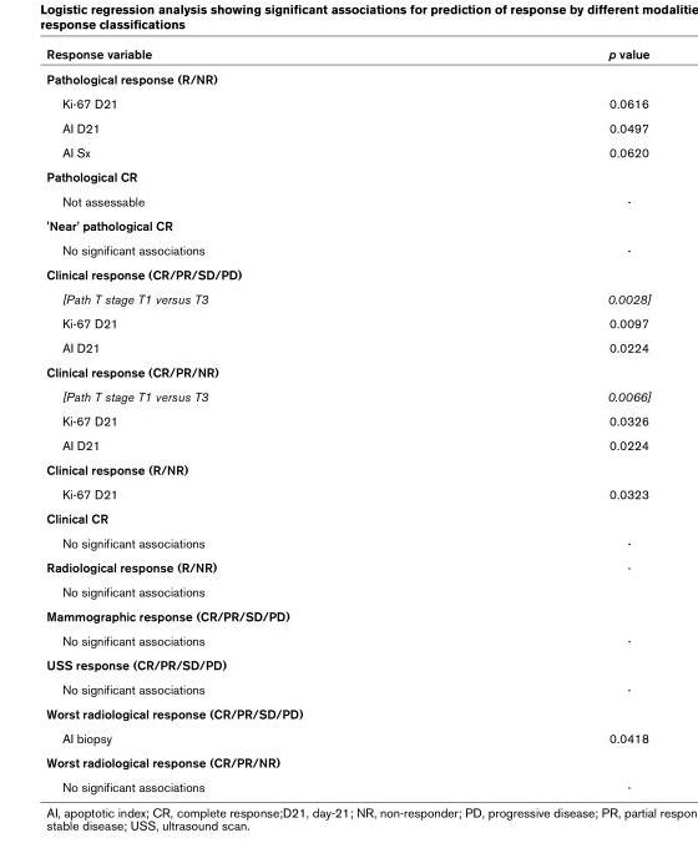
<table><thead><tr><td>Response variable</td><td>p value</td></tr></thead><tbody><tr><td colspan="2">Pathological response (R/NR)</td></tr><tr><td>Ki-67 D21</td><td>0.0616</td></tr><tr><td>AI D21</td><td>0.0497</td></tr><tr><td>AI Sx</td><td>0.0620</td></tr><tr><td colspan="2">Pathological CR</td></tr><tr><td>Not assessable</td><td>-</td></tr><tr><td colspan="2">&#x27;Near&#x27; pathological CR</td></tr><tr><td>No significant associations</td><td>-</td></tr><tr><td colspan="2">Clinical response (CR/PR/SD/PD)</td></tr><tr><td>[Path T stage T1 versus T3</td><td>0.0028]</td></tr><tr><td>Ki-67 D21</td><td>0.0097</td></tr><tr><td>AI D21</td><td>0.0224</td></tr><tr><td colspan="2">Clinical response (CR/PR/NR)</td></tr><tr><td>[Path T stage T1 versus T3</td><td>0.0066]</td></tr><tr><td>Ki-67 D21</td><td>0.0326</td></tr><tr><td>AI D21</td><td>0.0224</td></tr><tr><td colspan="2">Clinical response (R/NR)</td></tr><tr><td>Ki-67 D21</td><td>0.0323</td></tr><tr><td colspan="2">Clinical CR</td></tr><tr><td>No significant associations</td><td>-</td></tr><tr><td>Radiological response (R/NR)</td><td>-</td></tr><tr><td colspan="2">No significant associations</td></tr><tr><td colspan="2">Mammographic response (CR/PR/SD/PD)</td></tr><tr><td>No significant associations</td><td>-</td></tr><tr><td colspan="2">USS response (CR/PR/SD/PD)</td></tr><tr><td>No significant associations</td><td>-</td></tr><tr><td colspan="2">Worst radiological response (CR/PR/SD/PD)</td></tr><tr><td>AI biopsy</td><td>0.0418</td></tr><tr><td colspan="2">Worst radiological response (CR/PR/NR)</td></tr><tr><td>No significant associations</td><td>-</td></tr></tbody></table>